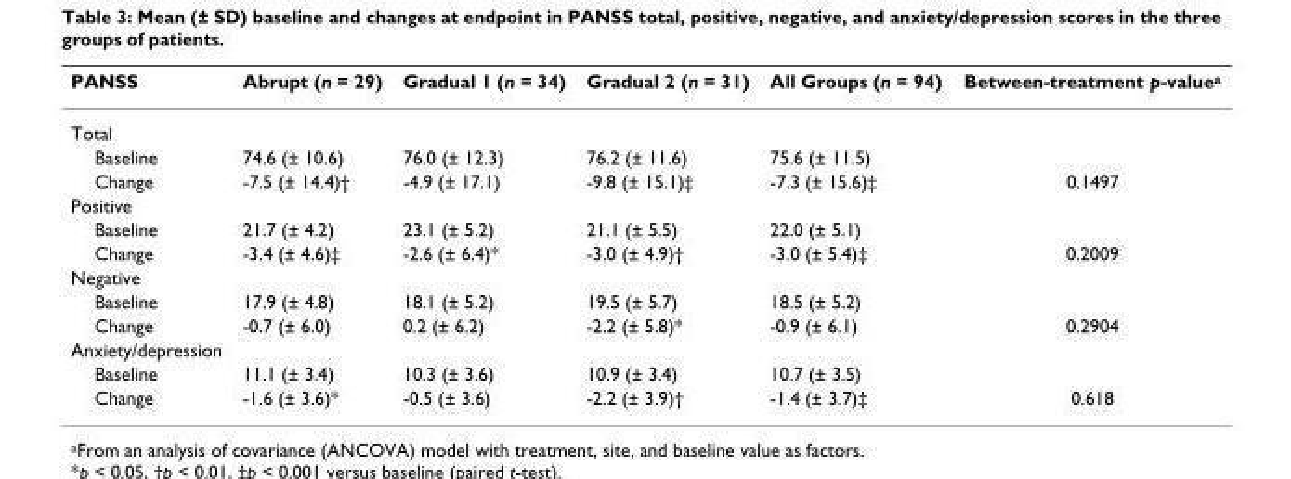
<table><thead><tr><td>PANSS</td><td>Abrupt (n = 29)</td><td>Gradual 1 (n = 34)</td><td>Gradual 2 (n = 31)</td><td>All Groups (n = 94)</td><td>Between-treatment p-value<sup>a</sup></td></tr></thead><tbody><tr><td colspan="6">Total</td></tr><tr><td>Baseline</td><td>74.6 (± 10.6)</td><td>76.0 (± 12.3)</td><td>76.2 (± 11.6)</td><td>75.6 (± 11.5)</td><td></td></tr><tr><td>Change</td><td>-7.5 (± 14.4)†</td><td>-4.9 (± 17.1)</td><td>-9.8 (± 15.1)‡</td><td>-7.3 (± 15.6)‡</td><td>0.1497</td></tr><tr><td colspan="6">Positive</td></tr><tr><td>Baseline</td><td>21.7 (± 4.2)</td><td>23.1 (± 5.2)</td><td>21.1 (± 5.5)</td><td>22.0 (± 5.1)</td><td></td></tr><tr><td>Change</td><td>-3.4 (± 4.6)‡</td><td>-2.6 (± 6.4)*</td><td>-3.0 (± 4.9)†</td><td>-3.0 (± 5.4)‡</td><td>0.2009</td></tr><tr><td colspan="6">Negative</td></tr><tr><td>Baseline</td><td>17.9 (± 4.8)</td><td>18.1 (± 5.2)</td><td>19.5 (± 5.7)</td><td>18.5 (± 5.2)</td><td></td></tr><tr><td>Change</td><td>-0.7 (± 6.0)</td><td>0.2 (± 6.2)</td><td>-2.2 (± 5.8)*</td><td>-0.9 (± 6.1)</td><td>0.2904</td></tr><tr><td colspan="6">Anxiety/depression</td></tr><tr><td>Baseline</td><td>11.1 (± 3.4)</td><td>10.3 (± 3.6)</td><td>10.9 (± 3.4)</td><td>10.7 (± 3.5)</td><td></td></tr><tr><td>Change</td><td>-1.6 (± 3.6)*</td><td>-0.5 (± 3.6)</td><td>-2.2 (± 3.9)†</td><td>-1.4 (± 3.7)‡</td><td>0.618</td></tr></tbody></table>